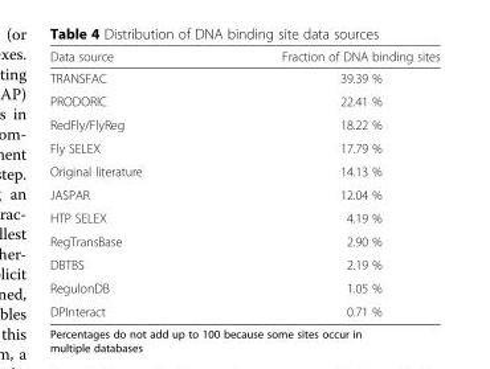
<table><thead><tr><td>Data source</td><td>Fraction of DNA binding sites</td></tr></thead><tbody><tr><td>TRANSFAC</td><td>39.39 %</td></tr><tr><td>PRODORIC</td><td>22.41 %</td></tr><tr><td>RedFly/FlyReg</td><td>18.22 %</td></tr><tr><td>Fly SELEX</td><td>17.79 %</td></tr><tr><td>Original literature</td><td>14.13 %</td></tr><tr><td>JASPAR</td><td>12.04 %</td></tr><tr><td>HTP SELEX</td><td>4.19 %</td></tr><tr><td>RegTransBase</td><td>2.90 %</td></tr><tr><td>DBTBS</td><td>2.19 %</td></tr><tr><td>RegulonDB</td><td>1.05 %</td></tr><tr><td>DPInteract</td><td>0.71 %</td></tr></tbody></table>